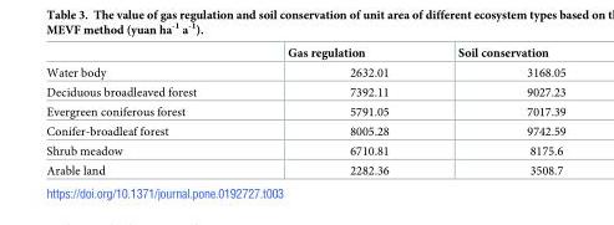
<table><thead><tr><td></td><td>Gas regulation</td><td>Soil conservation</td></tr></thead><tbody><tr><td>Water body</td><td>2632.01</td><td>3168.05</td></tr><tr><td>Deciduous broadleaved forest</td><td>7392.11</td><td>9027.23</td></tr><tr><td>Evergreen coniferous forest</td><td>5791.05</td><td>7017.39</td></tr><tr><td>Conifer-broadleaf forest</td><td>8005.28</td><td>9742.59</td></tr><tr><td>Shrub meadow</td><td>6710.81</td><td>8175.6</td></tr><tr><td>Arable land</td><td>2282.36</td><td>3508.7</td></tr></tbody></table>